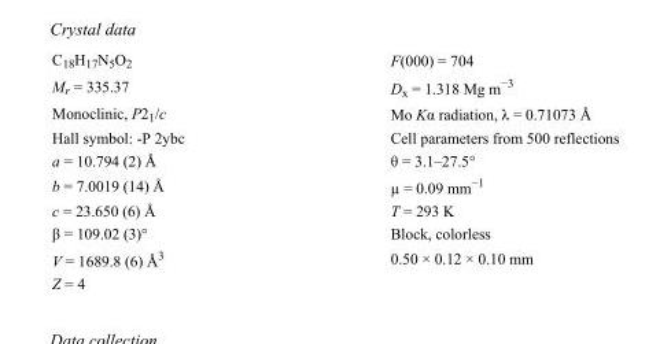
<table><tbody><tr><td>C<sub>18</sub>H<sub>17</sub>N<sub>5</sub>O<sub>2</sub></td><td>F(000) = 704</td></tr><tr><td>M<sub>r</sub> = 335.37</td><td>D<sub>x</sub> = 1.318 Mg m<sup>−3</sup></td></tr><tr><td>Monoclinic, P2<sub>1</sub>/c</td><td>Mo Kα radiation, λ = 0.71073 Å</td></tr><tr><td>Hall symbol: -P 2ybc</td><td>Cell parameters from 500 reflections</td></tr><tr><td>a = 10.794 (2) Å</td><td>θ = 3.1–27.5°</td></tr><tr><td>b = 7.0019 (14) Å</td><td>µ = 0.09 mm<sup>−1</sup></td></tr><tr><td>c = 23.650 (6) Å</td><td>T = 293 K</td></tr><tr><td>β = 109.02 (3)°</td><td>Block, colorless</td></tr><tr><td>V = 1689.8 (6) Å<sup>3</sup></td><td>0.50 × 0.12 × 0.10 mm</td></tr><tr><td>Z = 4</td><td></td></tr></tbody></table>